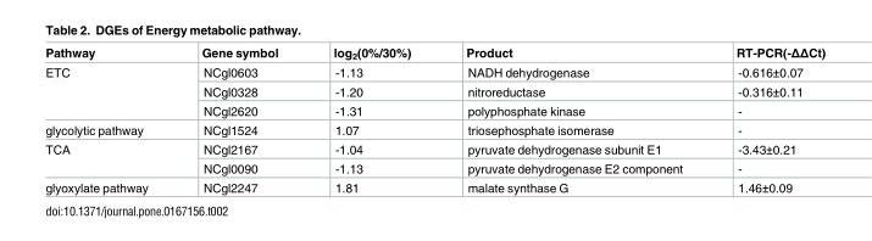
<table><thead><tr><td>Pathway</td><td>Gene symbol</td><td>log2(0%/30%)</td><td>Product</td><td>RT-PCR(-ΔΔCt)</td></tr></thead><tbody><tr><td rowspan="3">ETC</td><td>NCgl0603</td><td>-1.13</td><td>NADH dehydrogenase</td><td>-0.616±0.07</td></tr><tr><td>NCgl0328</td><td>-1.20</td><td>nitroreductase</td><td>-0.316±0.11</td></tr><tr><td>NCgl2620</td><td>-1.31</td><td>polyphosphate kinase</td><td>-</td></tr><tr><td>glycolytic pathway</td><td>NCgl1524</td><td>1.07</td><td>triosephosphate isomerase</td><td>-</td></tr><tr><td rowspan="2">TCA</td><td>NCgl2167</td><td>-1.04</td><td>pyruvate dehydrogenase subunit E1</td><td>-3.43±0.21</td></tr><tr><td>NCgl0090</td><td>-1.13</td><td>pyruvate dehydrogenase E2 component</td><td>-</td></tr><tr><td>glyoxylate pathway</td><td>NCgl2247</td><td>1.81</td><td>malate synthase G</td><td>1.46±0.09</td></tr></tbody></table>